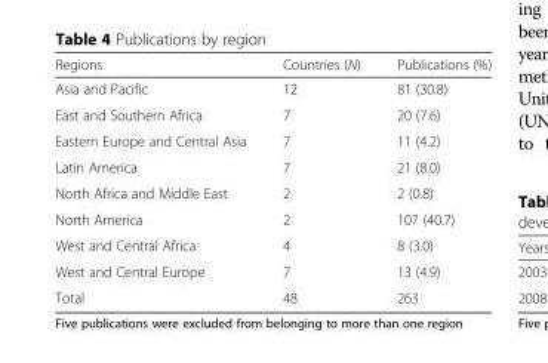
<table><thead><tr><td>Regions</td><td>Countries (N)</td><td>Publications (%)</td></tr></thead><tbody><tr><td>Asia and Pacific</td><td>12</td><td>81 (30.8)</td></tr><tr><td>East and Southern Africa</td><td>7</td><td>20 (7.6)</td></tr><tr><td>Eastern Europe and Central Asia</td><td>7</td><td>11 (4.2)</td></tr><tr><td>Latin America</td><td>7</td><td>21 (8.0)</td></tr><tr><td>North Africa and Middle East</td><td>2</td><td>2 (0.8)</td></tr><tr><td>North America</td><td>2</td><td>107 (40.7)</td></tr><tr><td>West and Central Africa</td><td>4</td><td>8 (3.0)</td></tr><tr><td>West and Central Europe</td><td>7</td><td>13 (4.9)</td></tr><tr><td>Total</td><td>48</td><td>263</td></tr></tbody></table>